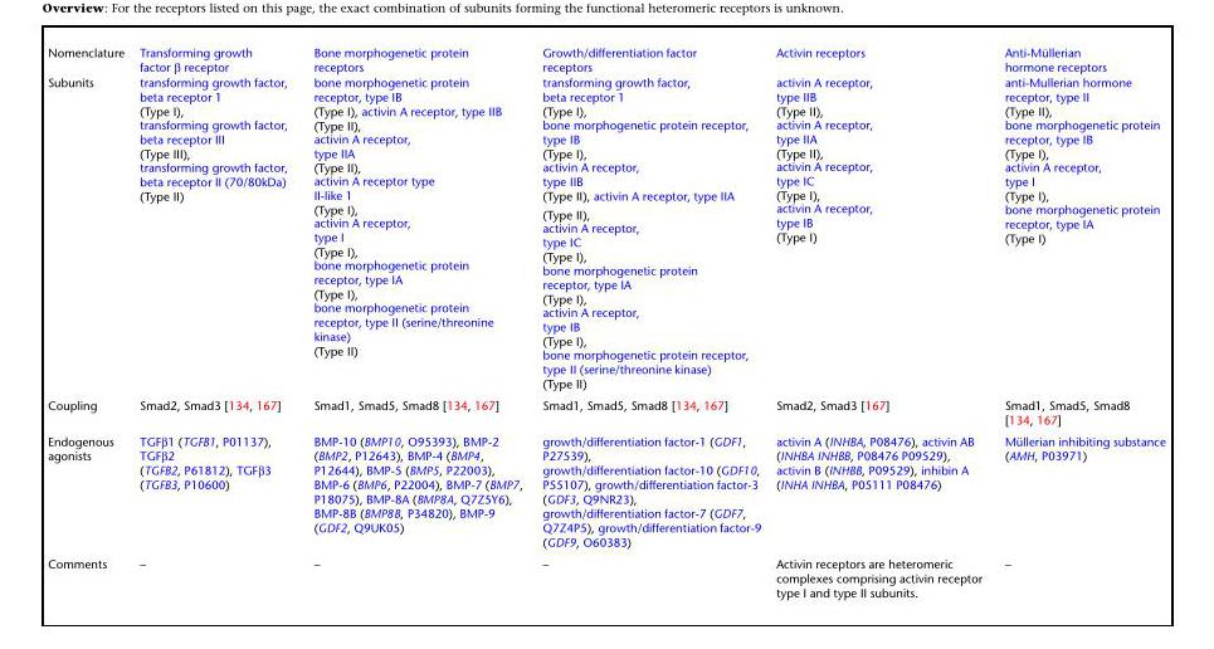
<table><tbody><tr><td>Nomenclature</td><td>Transforming growth factor β receptor</td><td>Bone morphogenetic protein receptors</td><td>Growth/differentiation factor receptors</td><td>Activin receptors</td><td>Anti-Müllerian hormone receptors</td></tr><tr><td>Subunits</td><td>transforming growth factor, beta receptor 1 (Type I), transforming growth factor, beta receptor III (Type III), transforming growth factor, beta receptor II (70/80kDa) (Type II)</td><td>bone morphogenetic protein receptor, type IB (Type I), activin A receptor, type IIB (Type II), activin A receptor, type IIA (Type II), activin A receptor type II-like 1 (Type I), activin A receptor, type I (Type I), bone morphogenetic protein receptor, type IA (Type I), bone morphogenetic protein receptor, type II (serine/threonine kinase) (Type II)</td><td>transforming growth factor, beta receptor 1 (Type I), bone morphogenetic protein receptor, type IB (Type I), activin A receptor, type IIB (Type II), activin A receptor, type IIA (Type II), activin A receptor, type IC (Type I), bone morphogenetic protein receptor, type IA (Type I), activin A receptor, type IB (Type I), bone morphogenetic protein receptor, type II (serine/threonine kinase) (Type II)</td><td>activin A receptor, type IIB (Type II), activin A receptor, type IIA (Type II), activin A receptor, type IC (Type I), activin A receptor, type IB (Type I)</td><td>anti-Mullerian hormone receptor, type II (Type II), bone morphogenetic protein receptor, type IB (Type I), activin A receptor, type I (Type I), bone morphogenetic protein receptor, type IA (Type I)</td></tr><tr><td>Coupling</td><td>Smad2, Smad3 [134, 167]</td><td>Smad1, Smad5, Smad8 [134, 167]</td><td>Smad1, Smad5, Smad8 [134, 167]</td><td>Smad2, Smad3 [167]</td><td>Smad1, Smad5, Smad8 [134, 167]</td></tr><tr><td>Endogenous agonists</td><td>TGFβ1 (TGFB1, P01137), TGFβ2 (TGFB2, P61812), TGFβ3 (TGFB3, P10600)</td><td>BMP-10 (BMP10, O95393), BMP-2 (BMP2, P12643), BMP-4 (BMP4, P12644), BMP-5 (BMP5, P22003), BMP-6 (BMP6, P22004), BMP-7 (BMP7, P18075), BMP-8A (BMP8A, Q7Z5Y6), BMP-8B (BMP8B, P34820), BMP-9 (GDF2, Q9UK05)</td><td>growth/differentiation factor-1 (GDF1, P27539), growth/differentiation factor-10 (GDF10, P55107), growth/differentiation factor-3 (GDF3, Q9NR23), growth/differentiation factor-7 (GDF7, Q7Z4P5), growth/differentiation factor-9 (GDF9, O60383)</td><td>activin A (INHBA, P08476), activin AB (INHBA INHBB, P08476 P09529), activin B (INHBB, P09529), inhibin A (INHA INHBA, P05111 P08476)</td><td>Müllerian inhibiting substance (AMH, P03971)</td></tr><tr><td>Comments</td><td>–</td><td>–</td><td>–</td><td>Activin receptors are heteromeric complexes comprising activin receptor type I and type II subunits.</td><td>–</td></tr></tbody></table>